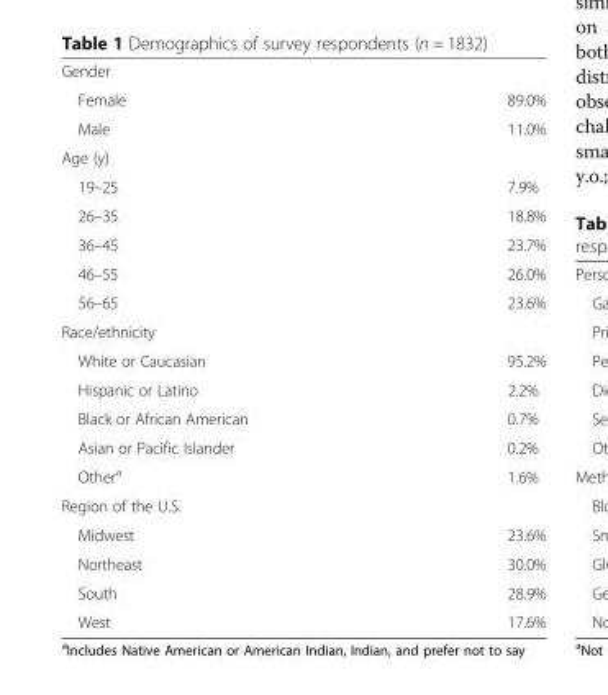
<table><tbody><tr><td colspan="2">Gender</td></tr><tr><td>Female</td><td>89.0%</td></tr><tr><td>Male</td><td>11.0%</td></tr><tr><td colspan="2">Age (y)</td></tr><tr><td>19–25</td><td>7.9%</td></tr><tr><td>26–35</td><td>18.8%</td></tr><tr><td>36–45</td><td>23.7%</td></tr><tr><td>46–55</td><td>26.0%</td></tr><tr><td>56–65</td><td>23.6%</td></tr><tr><td colspan="2">Race/ethnicity</td></tr><tr><td>White or Caucasian</td><td>95.2%</td></tr><tr><td>Hispanic or Latino</td><td>2.2%</td></tr><tr><td>Black or African American</td><td>0.7%</td></tr><tr><td>Asian or Pacific Islander</td><td>0.2%</td></tr><tr><td>Other<sup>a</sup></td><td>1.6%</td></tr><tr><td colspan="2">Region of the U.S.</td></tr><tr><td>Midwest</td><td>23.6%</td></tr><tr><td>Northeast</td><td>30.0%</td></tr><tr><td>South</td><td>28.9%</td></tr><tr><td>West</td><td>17.6%</td></tr></tbody></table>